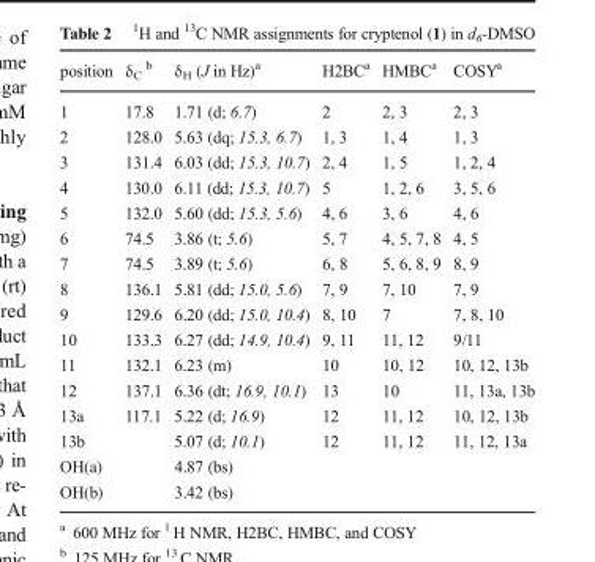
<table><thead><tr><td>position</td><td>δ<sub>C</sub> <sup>b</sup></td><td>δ<sub>H</sub> (J in Hz)<sup>a</sup></td><td>H2BC<sup>a</sup></td><td>HMBC<sup>a</sup></td><td>COSY<sup>a</sup></td></tr></thead><tbody><tr><td>1</td><td>17.8</td><td>1.71 (d; 6.7)</td><td>2</td><td>2, 3</td><td>2, 3</td></tr><tr><td>2</td><td>128.0</td><td>5.63 (dq; 15.3, 6.7)</td><td>1, 3</td><td>1, 4</td><td>1, 3</td></tr><tr><td>3</td><td>131.4</td><td>6.03 (dd; 15.3, 10.7)</td><td>2, 4</td><td>1, 5</td><td>1, 2, 4</td></tr><tr><td>4</td><td>130.0</td><td>6.11 (dd; 15.3, 10.7)</td><td>5</td><td>1, 2, 6</td><td>3, 5, 6</td></tr><tr><td>5</td><td>132.0</td><td>5.60 (dd; 15.3, 5.6)</td><td>4, 6</td><td>3, 6</td><td>4, 6</td></tr><tr><td>6</td><td>74.5</td><td>3.86 (t; 5.6)</td><td>5, 7</td><td>4, 5, 7, 8</td><td>4, 5</td></tr><tr><td>7</td><td>74.5</td><td>3.89 (t; 5.6)</td><td>6, 8</td><td>5, 6, 8, 9</td><td>8, 9</td></tr><tr><td>8</td><td>136.1</td><td>5.81 (dd; 15.0, 5.6)</td><td>7, 9</td><td>7, 10</td><td>7, 9</td></tr><tr><td>9</td><td>129.6</td><td>6.20 (dd; 15.0, 10.4)</td><td>8, 10</td><td>7</td><td>7, 8, 10</td></tr><tr><td>10</td><td>133.3</td><td>6.27 (dd; 14.9, 10.4)</td><td>9, 11</td><td>11, 12</td><td>9/11</td></tr><tr><td>11</td><td>132.1</td><td>6.23 (m)</td><td>10</td><td>10, 12</td><td>10, 12, 13b</td></tr><tr><td>12</td><td>137.1</td><td>6.36 (dt; 16.9, 10.1)</td><td>13</td><td>10</td><td>11, 13a, 13b</td></tr><tr><td>13a</td><td>117.1</td><td>5.22 (d; 16.9)</td><td>12</td><td>11, 12</td><td>10, 12, 13b</td></tr><tr><td>13b</td><td></td><td>5.07 (d; 10.1)</td><td>12</td><td>11, 12</td><td>11, 12, 13a</td></tr><tr><td>OH(a)</td><td></td><td>4.87 (bs)</td><td></td><td></td><td></td></tr><tr><td>OH(b)</td><td></td><td>3.42 (bs)</td><td></td><td></td><td></td></tr></tbody></table>